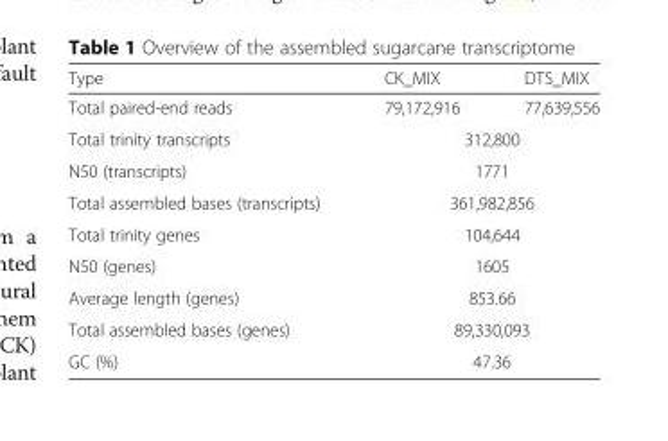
<table><thead><tr><td>Type</td><td>CK_MIX</td><td>DTS_MIX</td></tr></thead><tbody><tr><td>Total paired-end reads</td><td>79,172,916</td><td>77,639,556</td></tr><tr><td>Total trinity transcripts</td><td colspan="2">312,800</td></tr><tr><td>N50 (transcripts)</td><td colspan="2">1771</td></tr><tr><td>Total assembled bases (transcripts)</td><td colspan="2">361,982,856</td></tr><tr><td>Total trinity genes</td><td colspan="2">104,644</td></tr><tr><td>N50 (genes)</td><td colspan="2">1605</td></tr><tr><td>Average length (genes)</td><td colspan="2">853.66</td></tr><tr><td>Total assembled bases (genes)</td><td colspan="2">89,330,093</td></tr><tr><td>GC (%)</td><td colspan="2">47.36</td></tr></tbody></table>